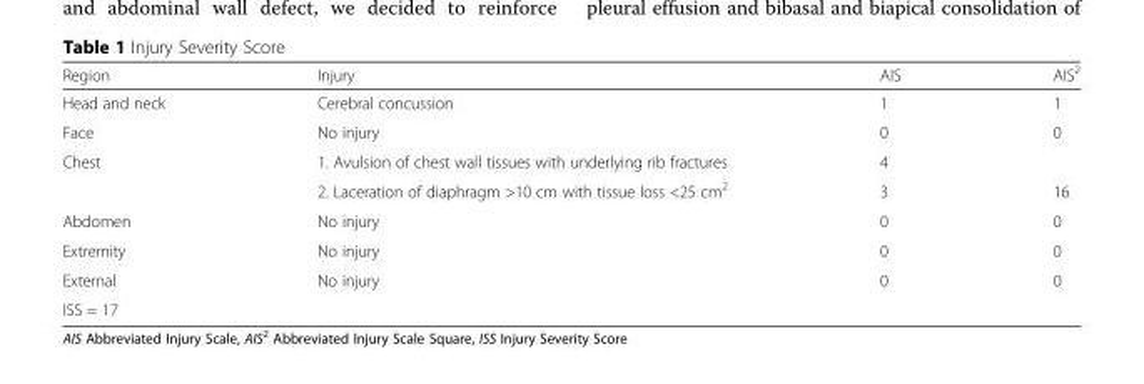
<table><thead><tr><td>Region</td><td>Injury</td><td>AIS</td><td>AIS<sup>2</sup></td></tr></thead><tbody><tr><td>Head and neck</td><td>Cerebral concussion</td><td>1</td><td>1</td></tr><tr><td>Face</td><td>No injury</td><td>0</td><td>0</td></tr><tr><td rowspan="2">Chest</td><td>1. Avulsion of chest wall tissues with underlying rib fractures</td><td>4</td><td></td></tr><tr><td>2. Laceration of diaphragm &gt;10 cm with tissue loss &lt;25 cm<sup>2</sup></td><td>3</td><td>16</td></tr><tr><td>Abdomen</td><td>No injury</td><td>0</td><td>0</td></tr><tr><td>Extremity</td><td>No injury</td><td>0</td><td>0</td></tr><tr><td>External</td><td>No injury</td><td>0</td><td>0</td></tr><tr><td colspan="4">ISS = 17</td></tr></tbody></table>